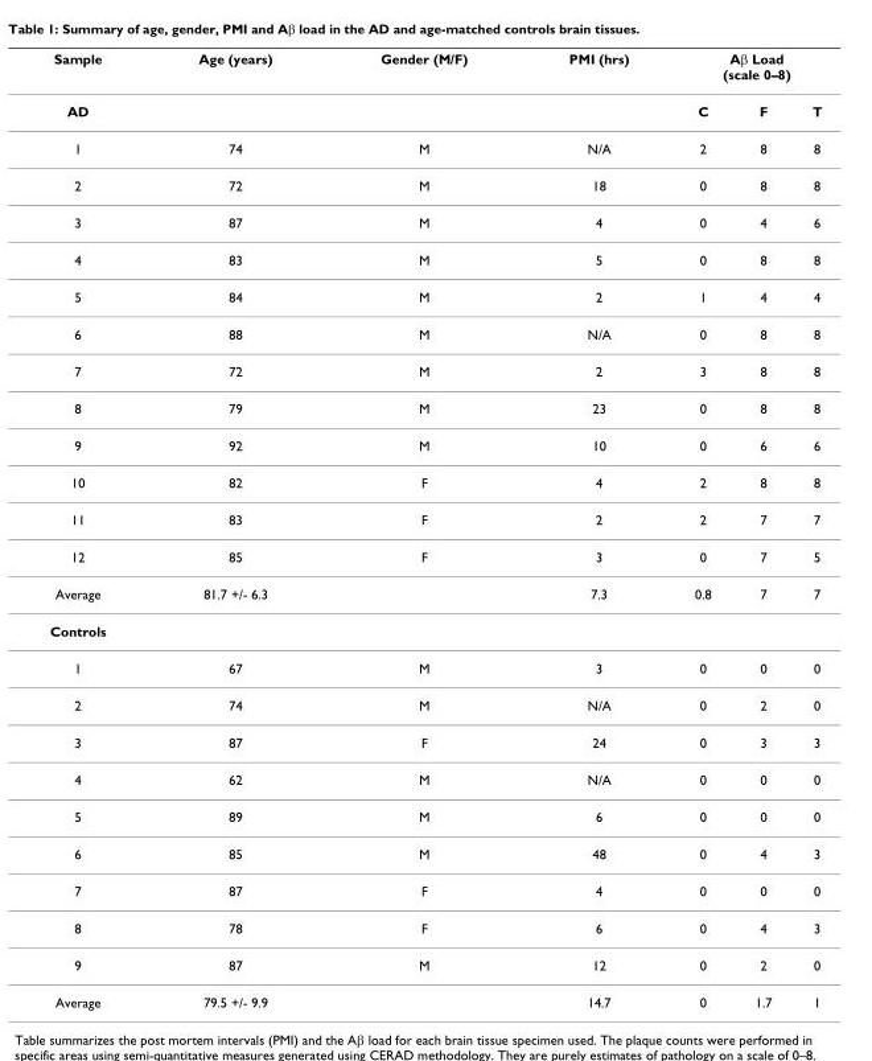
<table><thead><tr><td rowspan="2">Sample AD</td><td rowspan="2">Age (years)</td><td rowspan="2">Gender (M/F)</td><td rowspan="2">PMI (hrs)</td><td colspan="3">Aβ Load (scale 0–8)</td></tr><tr><td>C</td><td>F</td><td>T</td></tr></thead><tbody><tr><td>1</td><td>74</td><td>M</td><td>N/A</td><td>2</td><td>8</td><td>8</td></tr><tr><td>2</td><td>72</td><td>M</td><td>18</td><td>0</td><td>8</td><td>8</td></tr><tr><td>3</td><td>87</td><td>M</td><td>4</td><td>0</td><td>4</td><td>6</td></tr><tr><td>4</td><td>83</td><td>M</td><td>5</td><td>0</td><td>8</td><td>8</td></tr><tr><td>5</td><td>84</td><td>M</td><td>2</td><td>1</td><td>4</td><td>4</td></tr><tr><td>6</td><td>88</td><td>M</td><td>N/A</td><td>0</td><td>8</td><td>8</td></tr><tr><td>7</td><td>72</td><td>M</td><td>2</td><td>3</td><td>8</td><td>8</td></tr><tr><td>8</td><td>79</td><td>M</td><td>23</td><td>0</td><td>8</td><td>8</td></tr><tr><td>9</td><td>92</td><td>M</td><td>10</td><td>0</td><td>6</td><td>6</td></tr><tr><td>10</td><td>82</td><td>F</td><td>4</td><td>2</td><td>8</td><td>8</td></tr><tr><td>11</td><td>83</td><td>F</td><td>2</td><td>2</td><td>7</td><td>7</td></tr><tr><td>12</td><td>85</td><td>F</td><td>3</td><td>0</td><td>7</td><td>5</td></tr><tr><td>Average</td><td>81.7 +/- 6.3</td><td></td><td>7.3</td><td>0.8</td><td>7</td><td>7</td></tr><tr><td colspan="7">Controls</td></tr><tr><td>1</td><td>67</td><td>M</td><td>3</td><td>0</td><td>0</td><td>0</td></tr><tr><td>2</td><td>74</td><td>M</td><td>N/A</td><td>0</td><td>2</td><td>0</td></tr><tr><td>3</td><td>87</td><td>F</td><td>24</td><td>0</td><td>3</td><td>3</td></tr><tr><td>4</td><td>62</td><td>M</td><td>N/A</td><td>0</td><td>0</td><td>0</td></tr><tr><td>5</td><td>89</td><td>M</td><td>6</td><td>0</td><td>0</td><td>0</td></tr><tr><td>6</td><td>85</td><td>M</td><td>48</td><td>0</td><td>4</td><td>3</td></tr><tr><td>7</td><td>87</td><td>F</td><td>4</td><td>0</td><td>0</td><td>0</td></tr><tr><td>8</td><td>78</td><td>F</td><td>6</td><td>0</td><td>4</td><td>3</td></tr><tr><td>9</td><td>87</td><td>M</td><td>12</td><td>0</td><td>2</td><td>0</td></tr><tr><td>Average</td><td>79.5 +/- 9.9</td><td></td><td>14.7</td><td>0</td><td>1.7</td><td>1</td></tr></tbody></table>